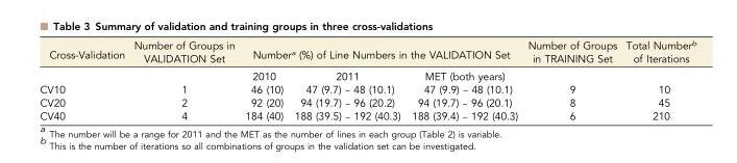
<table><thead><tr><td rowspan="2">Cross-Validation</td><td rowspan="2">Number of Groups in VALIDATION Set</td><td colspan="3">Number<sup>a</sup> (%) of Line Numbers in the VALIDATION Set</td><td rowspan="2">Number of Groups in TRAINING Set</td><td rowspan="2">Total Number<sup>b</sup> of Iterations</td></tr><tr><td>2010</td><td>2011</td><td>MET (both years)</td></tr></thead><tbody><tr><td>CV10</td><td>1</td><td>46 (10)</td><td>47 (9.7) – 48 (10.1)</td><td>47 (9.9) – 48 (10.1)</td><td>9</td><td>10</td></tr><tr><td>CV20</td><td>2</td><td>92 (20)</td><td>94 (19.7) – 96 (20.2)</td><td>94 (19.7) – 96 (20.1)</td><td>8</td><td>45</td></tr><tr><td>CV40</td><td>4</td><td>184 (40)</td><td>188 (39.5) – 192 (40.3)</td><td>188 (39.4) – 192 (40.3)</td><td>6</td><td>210</td></tr></tbody></table>